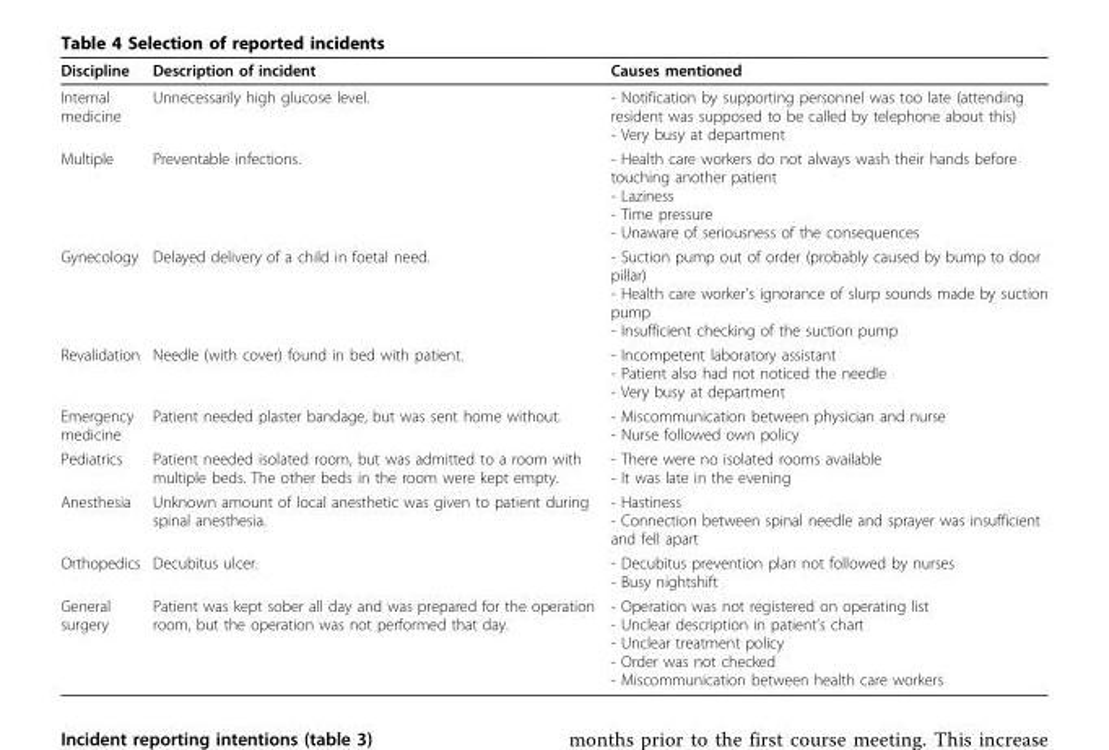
<table><thead><tr><td>Discipline</td><td>Description of incident</td><td>Causes mentioned</td></tr></thead><tbody><tr><td>Internal medicine</td><td>Unnecessarily high glucose level.</td><td>- Notification by supporting personnel was too late (attending resident was supposed to be called by telephone about this) - Very busy at department</td></tr><tr><td>Multiple</td><td>Preventable infections.</td><td>- Health care workers do not always wash their hands before touching another patient - Laziness - Time pressure - Unaware of seriousness of the consequences</td></tr><tr><td>Gynecology</td><td>Delayed delivery of a child in foetal need.</td><td>- Suction pump out of order (probably caused by bump to door pillar) - Health care worker’s ignorance of slurp sounds made by suction pump - Insufficient checking of the suction pump</td></tr><tr><td>Revalidation</td><td>Needle (with cover) found in bed with patient.</td><td>- Incompetent laboratory assistant - Patient also had not noticed the needle - Very busy at department</td></tr><tr><td>Emergency medicine</td><td>Patient needed plaster bandage, but was sent home without.</td><td>- Miscommunication between physician and nurse - Nurse followed own policy</td></tr><tr><td>Pediatrics</td><td>Patient needed isolated room, but was admitted to a room with multiple beds. The other beds in the room were kept empty.</td><td>- There were no isolated rooms available - It was late in the evening</td></tr><tr><td>Anesthesia</td><td>Unknown amount of local anesthetic was given to patient during spinal anesthesia.</td><td>- Hastiness - Connection between spinal needle and sprayer was insufficient and fell apart</td></tr><tr><td>Orthopedics</td><td>Decubitus ulcer.</td><td>- Decubitus prevention plan not followed by nurses - Busy nightshift</td></tr><tr><td>General surgery</td><td>Patient was kept sober all day and was prepared for the operation room, but the operation was not performed that day.</td><td>- Operation was not registered on operating list - Unclear description in patient’s chart - Unclear treatment policy - Order was not checked - Miscommunication between health care workers</td></tr></tbody></table>